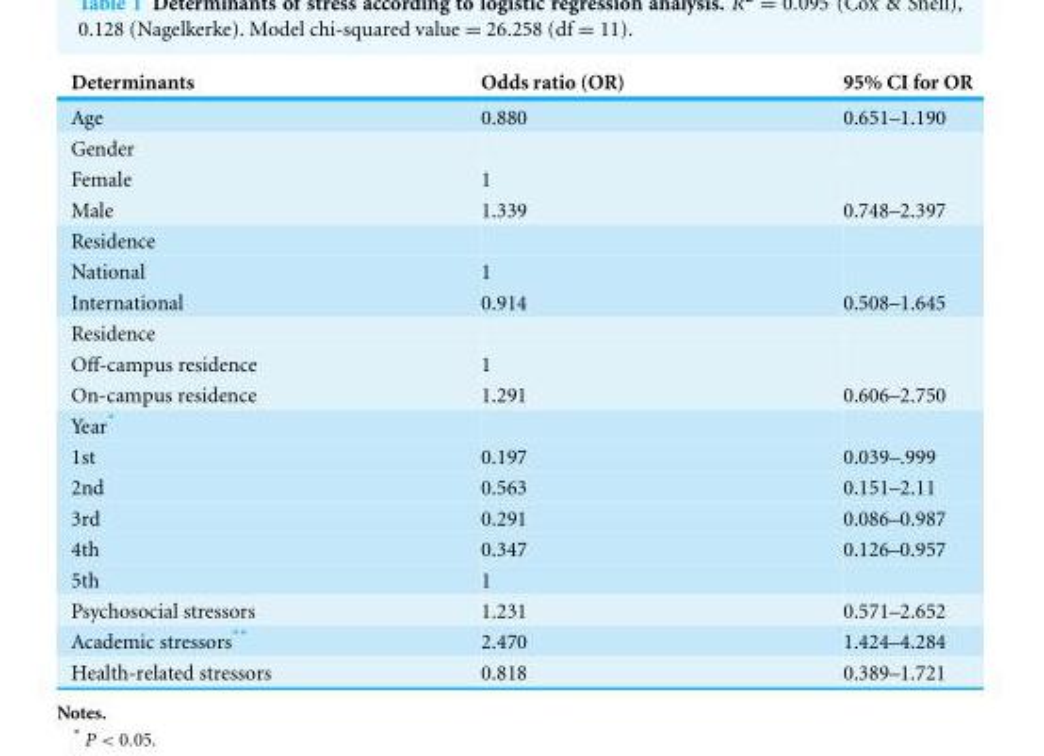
<table><thead><tr><td>Determinants</td><td>Odds ratio (OR)</td><td>95% CI for OR</td></tr></thead><tbody><tr><td>Age</td><td>0.880</td><td>0.651–1.190</td></tr><tr><td colspan="3">Gender</td></tr><tr><td>Female</td><td>1</td><td></td></tr><tr><td>Male</td><td>1.339</td><td>0.748–2.397</td></tr><tr><td colspan="3">Residence</td></tr><tr><td>National</td><td>1</td><td></td></tr><tr><td>International</td><td>0.914</td><td>0.508–1.645</td></tr><tr><td colspan="3">Residence</td></tr><tr><td>Off-campus residence</td><td>1</td><td></td></tr><tr><td>On-campus residence</td><td>1.291</td><td>0.606–2.750</td></tr><tr><td colspan="3">Year*</td></tr><tr><td>1st</td><td>0.197</td><td>0.039–.999</td></tr><tr><td>2nd</td><td>0.563</td><td>0.151–2.11</td></tr><tr><td>3rd</td><td>0.291</td><td>0.086–0.987</td></tr><tr><td>4th</td><td>0.347</td><td>0.126–0.957</td></tr><tr><td>5th</td><td>1</td><td></td></tr><tr><td>Psychosocial stressors</td><td>1.231</td><td>0.571–2.652</td></tr><tr><td>Academic stressors**</td><td>2.470</td><td>1.424–4.284</td></tr><tr><td>Health-related stressors</td><td>0.818</td><td>0.389–1.721</td></tr></tbody></table>